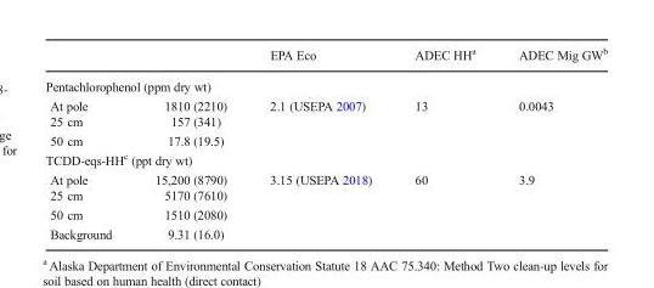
<table><thead><tr><td></td><td></td><td>EPA Eco</td><td>ADEC HH<sup>a</sup></td><td>ADEC Mig GW<sup>b</sup></td></tr></thead><tbody><tr><td colspan="5">Pentachlorophenol (ppm dry wt)</td></tr><tr><td>At pole</td><td>1810 (2210)</td><td rowspan="3">2.1 (USEPA 2007)</td><td rowspan="3">13</td><td rowspan="3">0.0043</td></tr><tr><td>25 cm</td><td>157 (341)</td></tr><tr><td>50 cm</td><td>17.8 (19.5)</td></tr><tr><td colspan="5">TCDD-eqs-HH<sup>c</sup> (ppt dry wt)</td></tr><tr><td>At pole</td><td>15,200 (8790)</td><td rowspan="4">3.15 (USEPA 2018)</td><td rowspan="4">60</td><td rowspan="4">3.9</td></tr><tr><td>25 cm</td><td>5170 (7610)</td></tr><tr><td>50 cm</td><td>1510 (2080)</td></tr><tr><td>Background</td><td>9.31 (16.0)</td></tr></tbody></table>